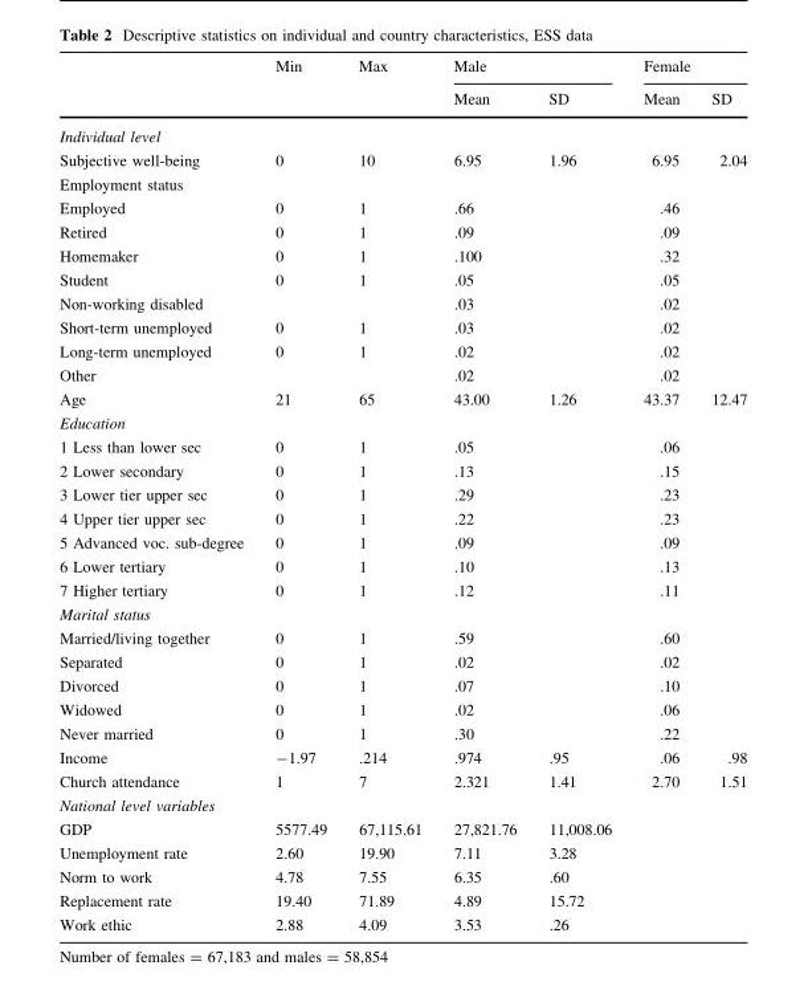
<table><thead><tr><td rowspan="2"></td><td rowspan="2">Min</td><td rowspan="2">Max</td><td colspan="2">Male</td><td colspan="2">Female</td></tr><tr><td>Mean</td><td>SD</td><td>Mean</td><td>SD</td></tr></thead><tbody><tr><td colspan="7">Individual level</td></tr><tr><td>Subjective well-being</td><td>0</td><td>10</td><td>6.95</td><td>1.96</td><td>6.95</td><td>2.04</td></tr><tr><td colspan="7">Employment status</td></tr><tr><td>Employed</td><td>0</td><td>1</td><td>.66</td><td></td><td>.46</td><td></td></tr><tr><td>Retired</td><td>0</td><td>1</td><td>.09</td><td></td><td>.09</td><td></td></tr><tr><td>Homemaker</td><td>0</td><td>1</td><td>.100</td><td></td><td>.32</td><td></td></tr><tr><td>Student</td><td>0</td><td>1</td><td>.05</td><td></td><td>.05</td><td></td></tr><tr><td>Non-working disabled</td><td></td><td></td><td>.03</td><td></td><td>.02</td><td></td></tr><tr><td>Short-term unemployed</td><td>0</td><td>1</td><td>.03</td><td></td><td>.02</td><td></td></tr><tr><td>Long-term unemployed</td><td>0</td><td>1</td><td>.02</td><td></td><td>.02</td><td></td></tr><tr><td>Other</td><td></td><td></td><td>.02</td><td></td><td>.02</td><td></td></tr><tr><td>Age</td><td>21</td><td>65</td><td>43.00</td><td>1.26</td><td>43.37</td><td>12.47</td></tr><tr><td colspan="7">Education</td></tr><tr><td>1 Less than lower sec</td><td>0</td><td>1</td><td>.05</td><td></td><td>.06</td><td></td></tr><tr><td>2 Lower secondary</td><td>0</td><td>1</td><td>.13</td><td></td><td>.15</td><td></td></tr><tr><td>3 Lower tier upper sec</td><td>0</td><td>1</td><td>.29</td><td></td><td>.23</td><td></td></tr><tr><td>4 Upper tier upper sec</td><td>0</td><td>1</td><td>.22</td><td></td><td>.23</td><td></td></tr><tr><td>5 Advanced voc. sub-degree</td><td>0</td><td>1</td><td>.09</td><td></td><td>.09</td><td></td></tr><tr><td>6 Lower tertiary</td><td>0</td><td>1</td><td>.10</td><td></td><td>.13</td><td></td></tr><tr><td>7 Higher tertiary</td><td>0</td><td>1</td><td>.12</td><td></td><td>.11</td><td></td></tr><tr><td colspan="7">Marital status</td></tr><tr><td>Married/living together</td><td>0</td><td>1</td><td>.59</td><td></td><td>.60</td><td></td></tr><tr><td>Separated</td><td>0</td><td>1</td><td>.02</td><td></td><td>.02</td><td></td></tr><tr><td>Divorced</td><td>0</td><td>1</td><td>.07</td><td></td><td>.10</td><td></td></tr><tr><td>Widowed</td><td>0</td><td>1</td><td>.02</td><td></td><td>.06</td><td></td></tr><tr><td>Never married</td><td>0</td><td>1</td><td>.30</td><td></td><td>.22</td><td></td></tr><tr><td>Income</td><td>-1.97</td><td>.214</td><td>.974</td><td>.95</td><td>.06</td><td>.98</td></tr><tr><td>Church attendance</td><td>1</td><td>7</td><td>2.321</td><td>1.41</td><td>2.70</td><td>1.51</td></tr><tr><td colspan="7">National level variables</td></tr><tr><td>GDP</td><td>5577.49</td><td>67,115.61</td><td>27,821.76</td><td>11,008.06</td><td></td><td></td></tr><tr><td>Unemployment rate</td><td>2.60</td><td>19.90</td><td>7.11</td><td>3.28</td><td></td><td></td></tr><tr><td>Norm to work</td><td>4.78</td><td>7.55</td><td>6.35</td><td>.60</td><td></td><td></td></tr><tr><td>Replacement rate</td><td>19.40</td><td>71.89</td><td>4.89</td><td>15.72</td><td></td><td></td></tr><tr><td>Work ethic</td><td>2.88</td><td>4.09</td><td>3.53</td><td>.26</td><td></td><td></td></tr></tbody></table>